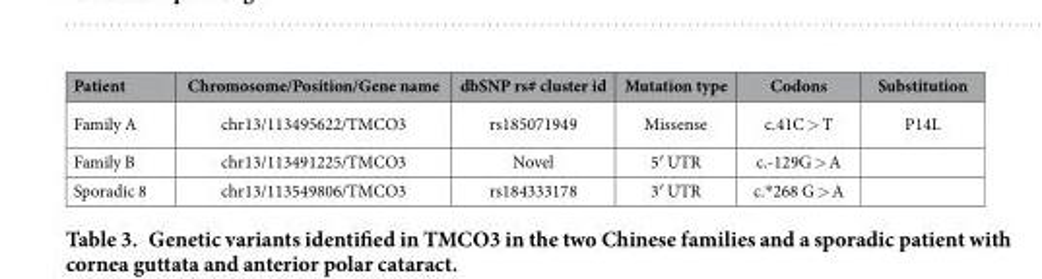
<table><thead><tr><td>Patient</td><td>Chromosome/Position/Gene name</td><td>dbSNP rs# cluster id</td><td>Mutation type</td><td>Codons</td><td>Substitution</td></tr></thead><tbody><tr><td>Family A</td><td>chr13/113495622/TMCO3</td><td>rs185071949</td><td>Missense</td><td>c.41C &gt; T</td><td>P14L</td></tr><tr><td>Family B</td><td>chr13/113491225/TMCO3</td><td>Novel</td><td>5′ UTR</td><td>c.-129G &gt; A</td><td></td></tr><tr><td>Sporadic 8</td><td>chr13/113549806/TMCO3</td><td>rs184333178</td><td>3′ UTR</td><td>c.* 268 G &gt; A</td><td></td></tr></tbody></table>